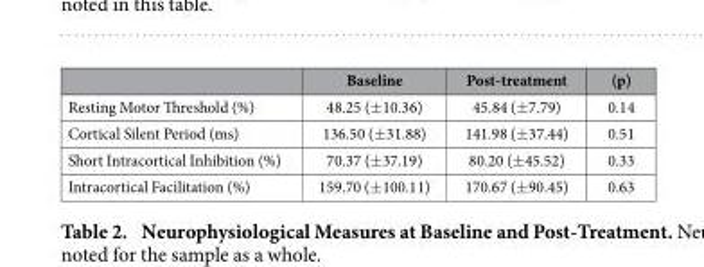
<table><thead><tr><td></td><td>Baseline</td><td>Post-treatment</td><td>(p)</td></tr></thead><tbody><tr><td>Resting Motor Threshold (%)</td><td>48.25 (± 10.36)</td><td>45.84 (± 7.79)</td><td>0.14</td></tr><tr><td>Cortical Silent Period (ms)</td><td>136.50 (± 31.88)</td><td>141.98 (± 37.44)</td><td>0.51</td></tr><tr><td>Short Intracortical Inhibition (%)</td><td>70.37 (± 37.19)</td><td>80.20 (± 45.52)</td><td>0.33</td></tr><tr><td>Intracortical Facilitation (%)</td><td>159.70 (± 100.11)</td><td>170.67 (± 90.45)</td><td>0.63</td></tr></tbody></table>